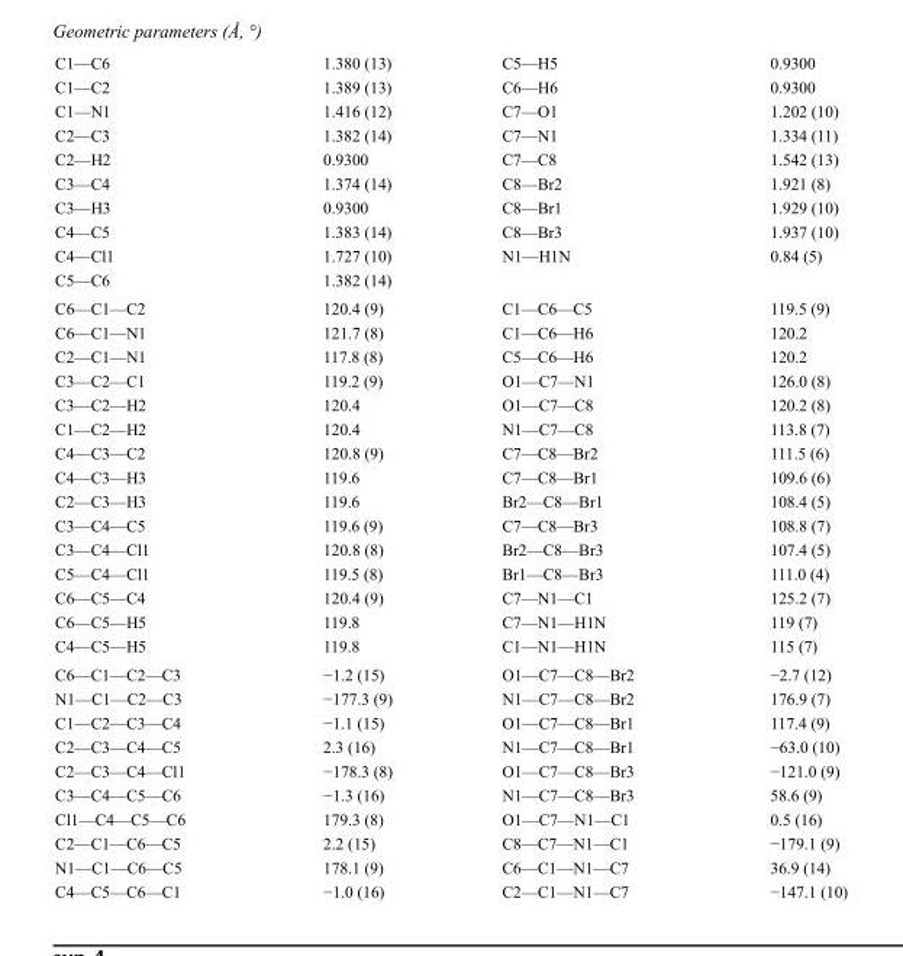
<table><tbody><tr><td>C1—C6</td><td>1.380 (13)</td><td>C5—H5</td><td>0.9300</td></tr><tr><td>C1—C2</td><td>1.389 (13)</td><td>C6—H6</td><td>0.9300</td></tr><tr><td>C1—N1</td><td>1.416 (12)</td><td>C7—O1</td><td>1.202 (10)</td></tr><tr><td>C2—C3</td><td>1.382 (14)</td><td>C7—N1</td><td>1.334 (11)</td></tr><tr><td>C2—H2</td><td>0.9300</td><td>C7—C8</td><td>1.542 (13)</td></tr><tr><td>C3—C4</td><td>1.374 (14)</td><td>C8—Br2</td><td>1.921 (8)</td></tr><tr><td>C3—H3</td><td>0.9300</td><td>C8—Br1</td><td>1.929 (10)</td></tr><tr><td>C4—C5</td><td>1.383 (14)</td><td>C8—Br3</td><td>1.937 (10)</td></tr><tr><td>C4—Cl1</td><td>1.727 (10)</td><td>N1—H1N</td><td>0.84 (5)</td></tr><tr><td>C5—C6</td><td>1.382 (14)</td><td></td><td></td></tr><tr><td>C6—C1—C2</td><td>120.4 (9)</td><td>C1—C6—C5</td><td>119.5 (9)</td></tr><tr><td>C6—C1—N1</td><td>121.7 (8)</td><td>C1—C6—H6</td><td>120.2</td></tr><tr><td>C2—C1—N1</td><td>117.8 (8)</td><td>C5—C6—H6</td><td>120.2</td></tr><tr><td>C3—C2—C1</td><td>119.2 (9)</td><td>O1—C7—N1</td><td>126.0 (8)</td></tr><tr><td>C3—C2—H2</td><td>120.4</td><td>O1—C7—C8</td><td>120.2 (8)</td></tr><tr><td>C1—C2—H2</td><td>120.4</td><td>N1—C7—C8</td><td>113.8 (7)</td></tr><tr><td>C4—C3—C2</td><td>120.8 (9)</td><td>C7—C8—Br2</td><td>111.5 (6)</td></tr><tr><td>C4—C3—H3</td><td>119.6</td><td>C7—C8—Br1</td><td>109.6 (6)</td></tr><tr><td>C2—C3—H3</td><td>119.6</td><td>Br2—C8—Br1</td><td>108.4 (5)</td></tr><tr><td>C3—C4—C5</td><td>119.6 (9)</td><td>C7—C8—Br3</td><td>108.8 (7)</td></tr><tr><td>C3—C4—Cl1</td><td>120.8 (8)</td><td>Br2—C8—Br3</td><td>107.4 (5)</td></tr><tr><td>C5—C4—Cl1</td><td>119.5 (8)</td><td>Br1—C8—Br3</td><td>111.0 (4)</td></tr><tr><td>C6—C5—C4</td><td>120.4 (9)</td><td>C7—N1—C1</td><td>125.2 (7)</td></tr><tr><td>C6—C5—H5</td><td>119.8</td><td>C7—N1—H1N</td><td>119 (7)</td></tr><tr><td>C4—C5—H5</td><td>119.8</td><td>C1—N1—H1N</td><td>115 (7)</td></tr><tr><td>C6—C1—C2—C3</td><td>−1.2 (15)</td><td>O1—C7—C8—Br2</td><td>−2.7 (12)</td></tr><tr><td>N1—C1—C2—C3</td><td>−177.3 (9)</td><td>N1—C7—C8—Br2</td><td>176.9 (7)</td></tr><tr><td>C1—C2—C3—C4</td><td>−1.1 (15)</td><td>O1—C7—C8—Br1</td><td>117.4 (9)</td></tr><tr><td>C2—C3—C4—C5</td><td>2.3 (16)</td><td>N1—C7—C8—Br1</td><td>−63.0 (10)</td></tr><tr><td>C2—C3—C4—Cl1</td><td>−178.3 (8)</td><td>O1—C7—C8—Br3</td><td>−121.0 (9)</td></tr><tr><td>C3—C4—C5—C6</td><td>−1.3 (16)</td><td>N1—C7—C8—Br3</td><td>58.6 (9)</td></tr><tr><td>Cl1—C4—C5—C6</td><td>179.3 (8)</td><td>O1—C7—N1—C1</td><td>0.5 (16)</td></tr><tr><td>C2—C1—C6—C5</td><td>2.2 (15)</td><td>C8—C7—N1—C1</td><td>−179.1 (9)</td></tr><tr><td>N1—C1—C6—C5</td><td>178.1 (9)</td><td>C6—C1—N1—C7</td><td>36.9 (14)</td></tr><tr><td>C4—C5—C6—C1</td><td>−1.0 (16)</td><td>C2—C1—N1—C7</td><td>−147.1 (10)</td></tr></tbody></table>